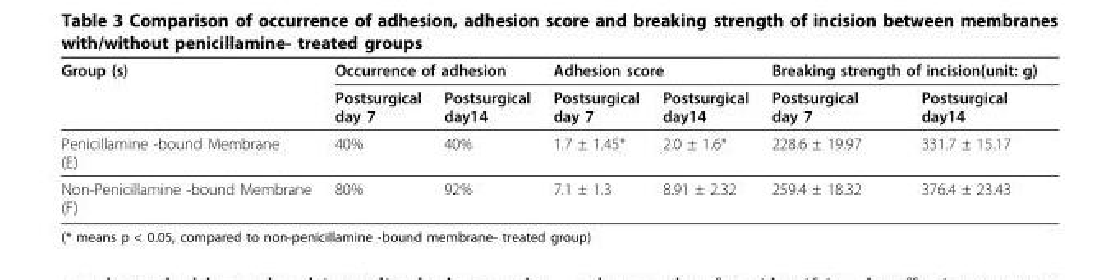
<table><thead><tr><td rowspan="2">Group (s)</td><td colspan="2">Occurrence of adhesion</td><td colspan="2">Adhesion score</td><td colspan="2">Breaking strength of incision(unit: g)</td></tr><tr><td>Postsurgical day 7</td><td>Postsurgical day14</td><td>Postsurgical day 7</td><td>Postsurgical day14</td><td>Postsurgical day 7</td><td>Postsurgical day14</td></tr></thead><tbody><tr><td>Penicillamine -bound Membrane (E)</td><td>40%</td><td>40%</td><td>1.7 ± 1.45*</td><td>2.0 ± 1.6*</td><td>228.6 ± 19.97</td><td>331.7 ± 15.17</td></tr><tr><td>Non-Penicillamine -bound Membrane (F)</td><td>80%</td><td>92%</td><td>7.1 ± 1.3</td><td>8.91 ± 2.32</td><td>259.4 ± 18.32</td><td>376.4 ± 23.43</td></tr></tbody></table>